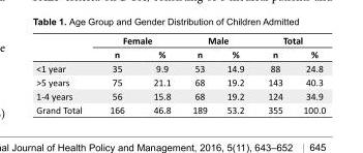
<table><thead><tr><td rowspan="2"></td><td colspan="2">Female</td><td colspan="2">Male</td><td colspan="2">Total</td></tr><tr><td>n</td><td>%</td><td>n</td><td>%</td><td>n</td><td>%</td></tr></thead><tbody><tr><td>&lt;1 year</td><td>35</td><td>9.9</td><td>53</td><td>14.9</td><td>88</td><td>24.8</td></tr><tr><td>&gt;5 years</td><td>75</td><td>21.1</td><td>68</td><td>19.2</td><td>143</td><td>40.3</td></tr><tr><td>1-4 years</td><td>56</td><td>15.8</td><td>68</td><td>19.2</td><td>124</td><td>34.9</td></tr><tr><td>Grand Total</td><td>166</td><td>46.8</td><td>189</td><td>53.2</td><td>355</td><td>100.0</td></tr></tbody></table>